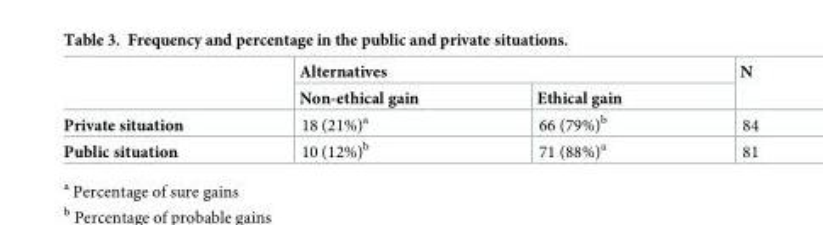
<table><thead><tr><td rowspan="2"></td><td colspan="2">Alternatives</td><td rowspan="2">N</td></tr><tr><td>Non-ethical gain</td><td>Ethical gain</td></tr></thead><tbody><tr><td>Private situation</td><td>18 (21%)<sup>a</sup></td><td>66 (79%)<sup>b</sup></td><td>84</td></tr><tr><td>Public situation</td><td>10 (12%)<sup>b</sup></td><td>71 (88%)<sup>a</sup></td><td>81</td></tr></tbody></table>